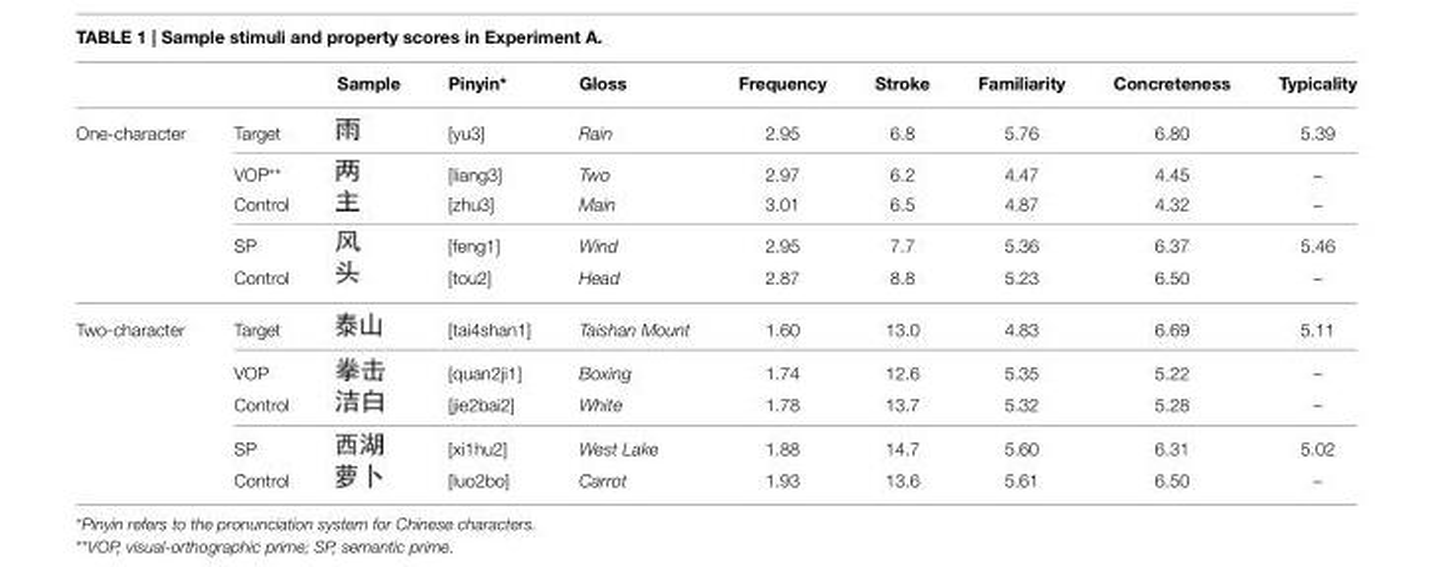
<table><thead><tr><td></td><td></td><td>Sample</td><td>Pinyin*</td><td>Gloss</td><td>Frequency</td><td>Stroke</td><td>Familiarity</td><td>Concreteness</td><td>Typicality</td></tr></thead><tbody><tr><td rowspan="5">One-character</td><td>Target</td><td></td><td>[yu3]</td><td>Rain</td><td>2.95</td><td>6.8</td><td>5.76</td><td>6.80</td><td>5.39</td></tr><tr><td>VOP**</td><td></td><td>[liang3]</td><td>Two</td><td>2.97</td><td>6.2</td><td>4.47</td><td>4.45</td><td>–</td></tr><tr><td>Control</td><td></td><td>[zhu3]</td><td>Main</td><td>3.01</td><td>6.5</td><td>4.87</td><td>4.32</td><td>–</td></tr><tr><td>SP</td><td></td><td>[feng1]</td><td>Wind</td><td>2.95</td><td>7.7</td><td>5.36</td><td>6.37</td><td>5.46</td></tr><tr><td>Control</td><td></td><td>[tou2]</td><td>Head</td><td>2.87</td><td>8.8</td><td>5.23</td><td>6.50</td><td>–</td></tr><tr><td rowspan="5">Two-character</td><td>Target</td><td></td><td>[tai4shan1]</td><td>Taishan Mount</td><td>1.60</td><td>13.0</td><td>4.83</td><td>6.69</td><td>5.11</td></tr><tr><td>VOP</td><td></td><td>[quan2ji1]</td><td>Boxing</td><td>1.74</td><td>12.6</td><td>5.35</td><td>5.22</td><td>–</td></tr><tr><td>Control</td><td></td><td>[jie2bai2]</td><td>White</td><td>1.78</td><td>13.7</td><td>5.32</td><td>5.28</td><td>–</td></tr><tr><td>SP</td><td></td><td>[xi1hu2]</td><td>West Lake</td><td>1.88</td><td>14.7</td><td>5.60</td><td>6.31</td><td>5.02</td></tr><tr><td>Control</td><td></td><td>[luo2bo]</td><td>Carrot</td><td>1.93</td><td>13.6</td><td>5.61</td><td>6.50</td><td>–</td></tr></tbody></table>